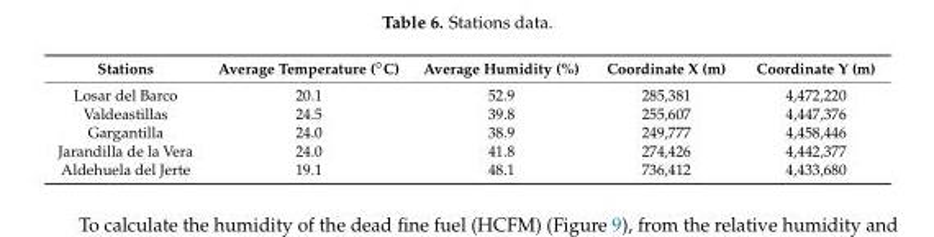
<table><thead><tr><td>Stations</td><td>Average Temperature (◦C)</td><td>Average Humidity (%)</td><td>Coordinate X (m)</td><td>Coordinate Y (m)</td></tr></thead><tbody><tr><td>Losar del Barco</td><td>20.1</td><td>52.9</td><td>285,381</td><td>4,472,220</td></tr><tr><td>Valdeastillas</td><td>24.5</td><td>39.8</td><td>255,607</td><td>4,447,376</td></tr><tr><td>Gargantilla</td><td>24.0</td><td>38.9</td><td>249,777</td><td>4,458,446</td></tr><tr><td>Jarandilla de la Vera</td><td>24.0</td><td>41.8</td><td>274,426</td><td>4,442,377</td></tr><tr><td>Aldehuela del Jerte</td><td>19.1</td><td>48.1</td><td>736,412</td><td>4,433,680</td></tr></tbody></table>